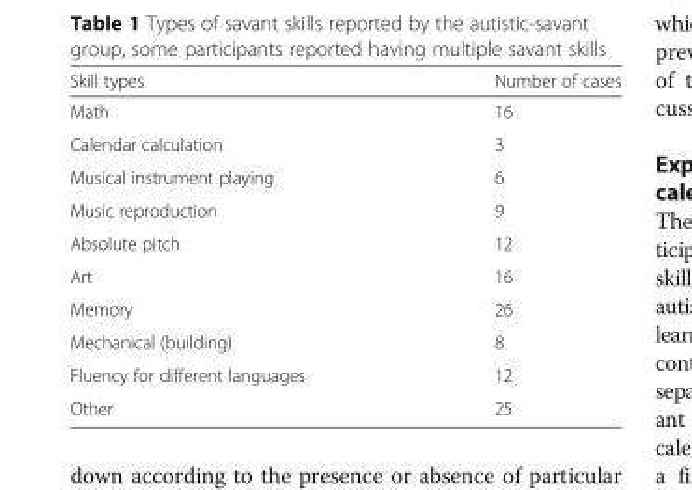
<table><thead><tr><td>Skill types</td><td>Number of cases</td></tr></thead><tbody><tr><td>Math</td><td>16</td></tr><tr><td>Calendar calculation</td><td>3</td></tr><tr><td>Musical instrument playing</td><td>6</td></tr><tr><td>Music reproduction</td><td>9</td></tr><tr><td>Absolute pitch</td><td>12</td></tr><tr><td>Art</td><td>16</td></tr><tr><td>Memory</td><td>26</td></tr><tr><td>Mechanical (building)</td><td>8</td></tr><tr><td>Fluency for different languages</td><td>12</td></tr><tr><td>Other</td><td>25</td></tr></tbody></table>